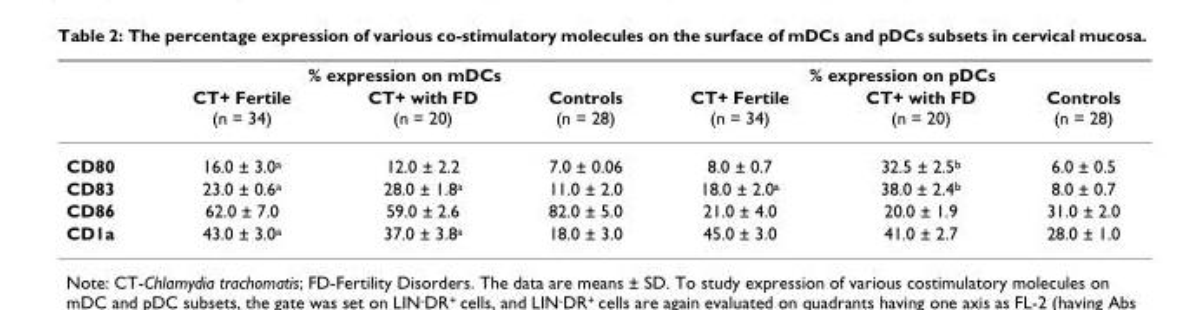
<table><thead><tr><td rowspan="2"></td><td colspan="3">% expression on mDCs</td><td colspan="3">% expression on pDCs</td></tr><tr><td>CT+ Fertile (n = 34)</td><td>CT+ with FD (n = 20)</td><td>Controls (n = 28)</td><td>CT+ Fertile (n = 34)</td><td>CT+ with FD (n = 20)</td><td>Controls (n = 28)</td></tr></thead><tbody><tr><td>CD80</td><td>16.0 ± 3.0<sup>a</sup></td><td>12.0 ± 2.2</td><td>7.0 ± 0.06</td><td>8.0 ± 0.7</td><td>32.5 ± 2.5<sup>b</sup></td><td>6.0 ± 0.5</td></tr><tr><td>CD83</td><td>23.0 ± 0.6<sup>a</sup></td><td>28.0 ± 1.8<sup>a</sup></td><td>11.0 ± 2.0</td><td>18.0 ± 2.0<sup>a</sup></td><td>38.0 ± 2.4<sup>b</sup></td><td>8.0 ± 0.7</td></tr><tr><td>CD86</td><td>62.0 ± 7.0</td><td>59.0 ± 2.6</td><td>82.0 ± 5.0</td><td>21.0 ± 4.0</td><td>20.0 ± 1.9</td><td>31.0 ± 2.0</td></tr><tr><td>CD1a</td><td>43.0 ± 3.0<sup>a</sup></td><td>37.0 ± 3.8<sup>a</sup></td><td>18.0 ± 3.0</td><td>45.0 ± 3.0</td><td>41.0 ± 2.7</td><td>28.0 ± 1.0</td></tr></tbody></table>